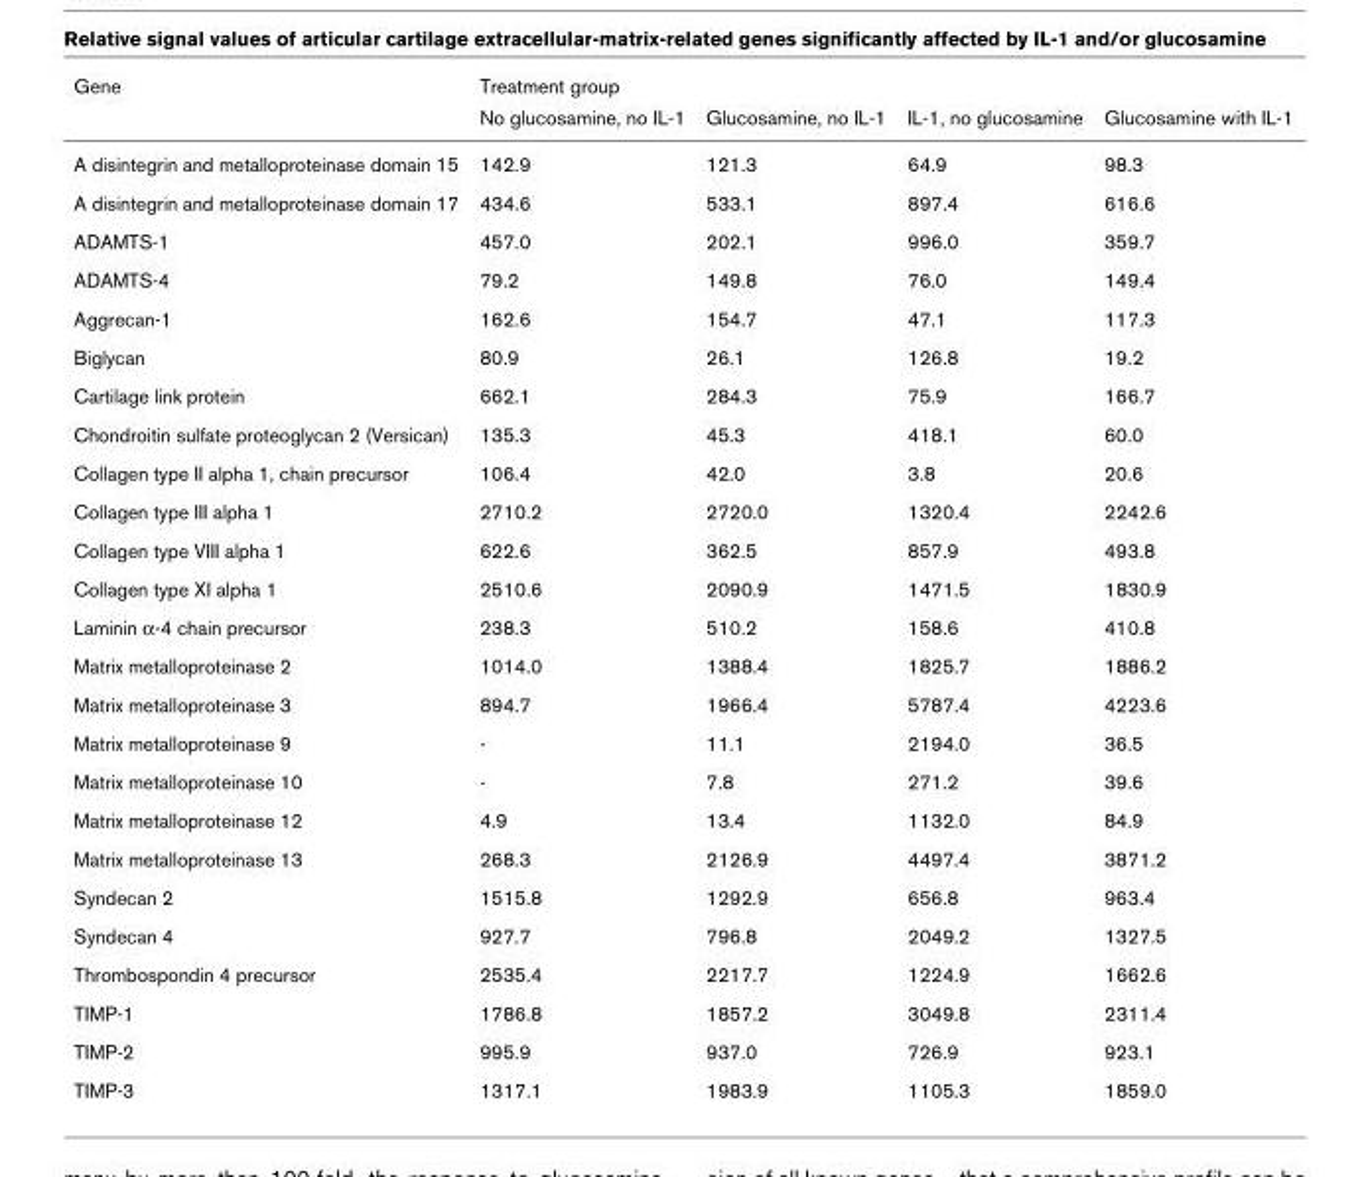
<table><thead><tr><td rowspan="2">Gene</td><td colspan="4">Treatment group</td></tr><tr><td>No glucosamine, no IL-1</td><td>Glucosamine, no IL-1</td><td>IL-1, no glucosamine</td><td>Glucosamine with IL-1</td></tr></thead><tbody><tr><td>A disintegrin and metalloproteinase domain 15</td><td>142.9</td><td>121.3</td><td>64.9</td><td>98.3</td></tr><tr><td>A disintegrin and metalloproteinase domain 17</td><td>434.6</td><td>533.1</td><td>897.4</td><td>616.6</td></tr><tr><td>ADAMTS-1</td><td>457.0</td><td>202.1</td><td>996.0</td><td>359.7</td></tr><tr><td>ADAMTS-4</td><td>79.2</td><td>149.8</td><td>76.0</td><td>149.4</td></tr><tr><td>Aggrecan-1</td><td>162.6</td><td>154.7</td><td>47.1</td><td>117.3</td></tr><tr><td>Biglycan</td><td>80.9</td><td>26.1</td><td>126.8</td><td>19.2</td></tr><tr><td>Cartilage link protein</td><td>662.1</td><td>284.3</td><td>75.9</td><td>166.7</td></tr><tr><td>Chondroitin sulfate proteoglycan 2 (Versican)</td><td>135.3</td><td>45.3</td><td>418.1</td><td>60.0</td></tr><tr><td>Collagen type II alpha 1, chain precursor</td><td>106.4</td><td>42.0</td><td>3.8</td><td>20.6</td></tr><tr><td>Collagen type III alpha 1</td><td>2710.2</td><td>2720.0</td><td>1320.4</td><td>2242.6</td></tr><tr><td>Collagen type VIII alpha 1</td><td>622.6</td><td>362.5</td><td>857.9</td><td>493.8</td></tr><tr><td>Collagen type XI alpha 1</td><td>2510.6</td><td>2090.9</td><td>1471.5</td><td>1830.9</td></tr><tr><td>Laminin α-4 chain precursor</td><td>238.3</td><td>510.2</td><td>158.6</td><td>410.8</td></tr><tr><td>Matrix metalloproteinase 2</td><td>1014.0</td><td>1388.4</td><td>1825.7</td><td>1886.2</td></tr><tr><td>Matrix metalloproteinase 3</td><td>894.7</td><td>1966.4</td><td>5787.4</td><td>4223.6</td></tr><tr><td>Matrix metalloproteinase 9</td><td>-</td><td>11.1</td><td>2194.0</td><td>36.5</td></tr><tr><td>Matrix metalloproteinase 10</td><td>-</td><td>7.8</td><td>271.2</td><td>39.6</td></tr><tr><td>Matrix metalloproteinase 12</td><td>4.9</td><td>13.4</td><td>1132.0</td><td>84.9</td></tr><tr><td>Matrix metalloproteinase 13</td><td>268.3</td><td>2126.9</td><td>4497.4</td><td>3871.2</td></tr><tr><td>Syndecan 2</td><td>1515.8</td><td>1292.9</td><td>656.8</td><td>963.4</td></tr><tr><td>Syndecan 4</td><td>927.7</td><td>796.8</td><td>2049.2</td><td>1327.5</td></tr><tr><td>Thrombospondin 4 precursor</td><td>2535.4</td><td>2217.7</td><td>1224.9</td><td>1662.6</td></tr><tr><td>TIMP-1</td><td>1786.8</td><td>1857.2</td><td>3049.8</td><td>2311.4</td></tr><tr><td>TIMP-2</td><td>995.9</td><td>937.0</td><td>726.9</td><td>923.1</td></tr><tr><td>TIMP-3</td><td>1317.1</td><td>1983.9</td><td>1105.3</td><td>1859.0</td></tr></tbody></table>